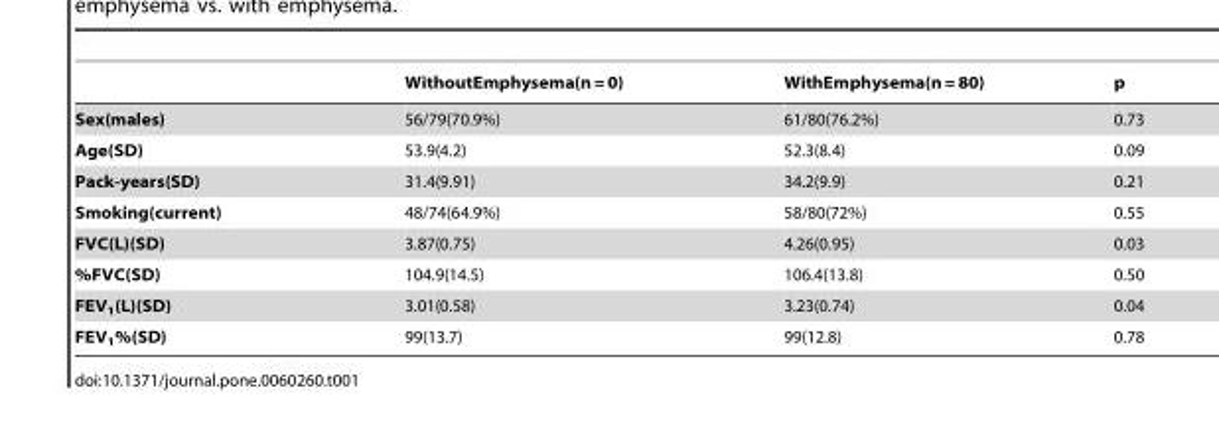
<table><thead><tr><td></td><td>WithoutEmphysema(n = 0)</td><td>WithEmphysema(n = 80)</td><td>p</td></tr></thead><tbody><tr><td>Sex(males)</td><td>56/79(70.9%)</td><td>61/80(76.2%)</td><td>0.73</td></tr><tr><td>Age(SD)</td><td>53.9(4.2)</td><td>52.3(8.4)</td><td>0.09</td></tr><tr><td>Pack-years(SD)</td><td>31.4(9.91)</td><td>34.2(9.9)</td><td>0.21</td></tr><tr><td>Smoking(current)</td><td>48/74(64.9%)</td><td>58/80(72%)</td><td>0.55</td></tr><tr><td>FVC(L)(SD)</td><td>3.87(0.75)</td><td>4.26(0.95)</td><td>0.03</td></tr><tr><td>%FVC(SD)</td><td>104.9(14.5)</td><td>106.4(13.8)</td><td>0.50</td></tr><tr><td>FEV<sub>1</sub>(L)(SD)</td><td>3.01(0.58)</td><td>3.23(0.74)</td><td>0.04</td></tr><tr><td>FEV<sub>1</sub>%(SD)</td><td>99(13.7)</td><td>99(12.8)</td><td>0.78</td></tr></tbody></table>